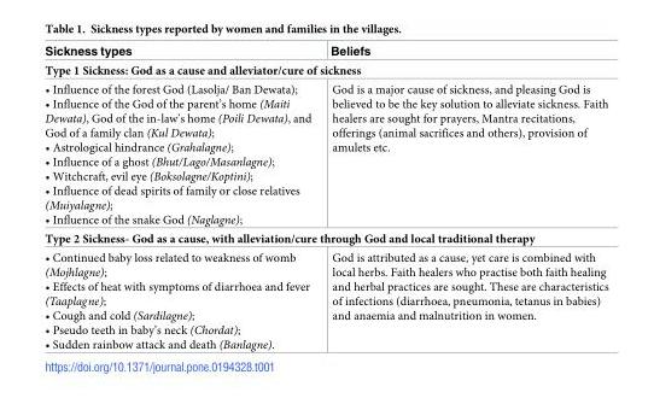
<table><thead><tr><td>Sickness types</td><td>Beliefs</td></tr></thead><tbody><tr><td colspan="2">Type 1 Sickness: God as a cause and alleviator/cure of sickness</td></tr><tr><td>• Influence of the forest God (Lasolja/ Ban Dewata); • Influence of the God of the parent’s home (Maiti Dewata), God of the in-law’s home (Poili Dewata), and God of a family clan (Kul Dewata); • Astrological hindrance (Grahalagne); • Influence of a ghost (Bhut/Lago/Masanlagne); • Witchcraft, evil eye (Boksolagne/Koptini); • Influence of dead spirits of family or close relatives (Muiyalagne); • Influence of the snake God (Naglagne);</td><td>God is a major cause of sickness, and pleasing God is believed to be the key solution to alleviate sickness. Faith healers are sought for prayers, Mantra recitations, offerings (animal sacrifices and others), provision of amulets etc.</td></tr><tr><td colspan="2">Type 2 Sickness- God as a cause, with alleviation/cure through God and local traditional therapy</td></tr><tr><td>• Continued baby loss related to weakness of womb (Mojhlagne); • Effects of heat with symptoms of diarrhoea and fever (Taaplagne); • Cough and cold (Sardilagne); • Pseudo teeth in baby’s neck (Chordat); • Sudden rainbow attack and death (Banlagne).</td><td>God is attributed as a cause, yet care is combined with local herbs. Faith healers who practise both faith healing and herbal practices are sought. These are characteristics of infections (diarrhoea, pneumonia, tetanus in babies) and anaemia and malnutrition in women.</td></tr></tbody></table>